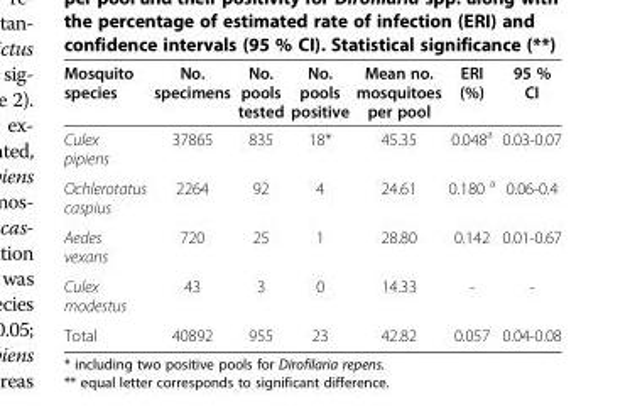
<table><thead><tr><td>Mosquito species</td><td>No. specimens</td><td>No. pools tested</td><td>No. pools positive</td><td>Mean no. mosquitoes per pool</td><td>ERI (%)</td><td>95 % CI</td></tr></thead><tbody><tr><td>Culex pipiens</td><td>37865</td><td>835</td><td>18*</td><td>45.35</td><td>0.048<sup>a</sup></td><td>0.03-0.07</td></tr><tr><td>Ochlerotatus caspius</td><td>2264</td><td>92</td><td>4</td><td>24.61</td><td>0.180 <sup>a</sup></td><td>0.06-0.4</td></tr><tr><td>Aedes vexans</td><td>720</td><td>25</td><td>1</td><td>28.80</td><td>0.142</td><td>0.01-0.67</td></tr><tr><td>Culex modestus</td><td>43</td><td>3</td><td>0</td><td>14.33</td><td>-</td><td>-</td></tr><tr><td>Total</td><td>40892</td><td>955</td><td>23</td><td>42.82</td><td>0.057</td><td>0.04-0.08</td></tr></tbody></table>